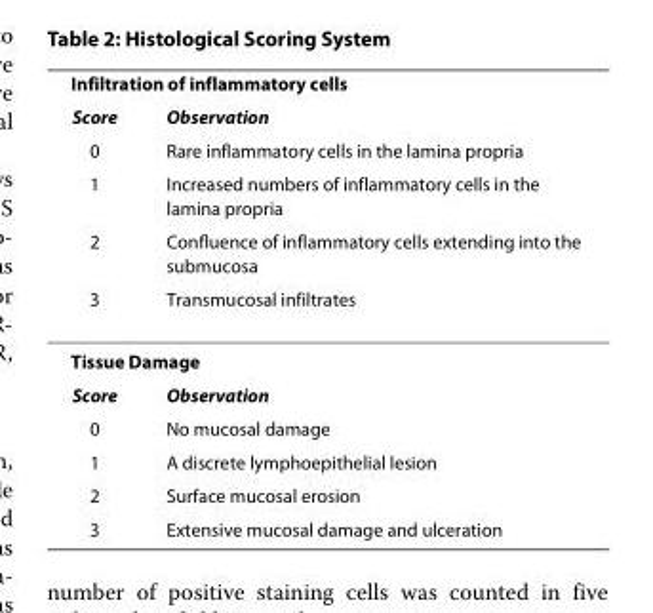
<table><thead><tr><td colspan="2">Infiltration of inflammatory cells</td></tr><tr><td rowspan="5">Score 0 1 2 3</td><td rowspan="5">Observation Rare inflammatory cells in the lamina propria Increased numbers of inflammatory cells in the lamina propria Confluence of inflammatory cells extending into the submucosa Transmucosal infiltrates</td></tr><tr></tr><tr></tr><tr></tr><tr></tr></thead><tbody><tr><td colspan="2">Tissue Damage</td></tr><tr><td>Score</td><td>Observation</td></tr><tr><td>0</td><td>No mucosal damage</td></tr><tr><td>1</td><td>A discrete lymphoepithelial lesion</td></tr><tr><td>2</td><td>Surface mucosal erosion</td></tr><tr><td>3</td><td>Extensive mucosal damage and ulceration</td></tr></tbody></table>